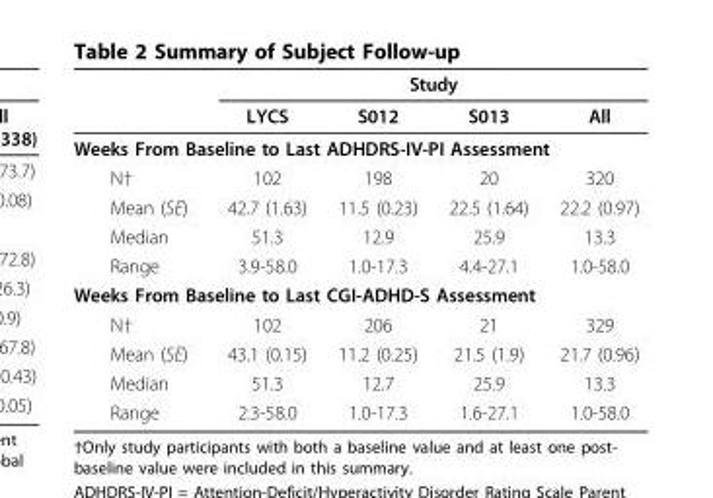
<table><thead><tr><td rowspan="2"></td><td colspan="4">Study</td></tr><tr><td>LYCS</td><td>S012</td><td>S013</td><td>All</td></tr></thead><tbody><tr><td colspan="5">Weeks From Baseline to Last ADHDRS-IV-PI Assessment</td></tr><tr><td>N†</td><td>102</td><td>198</td><td>20</td><td>320</td></tr><tr><td>Mean (SE)</td><td>42.7 (1.63)</td><td>11.5 (0.23)</td><td>22.5 (1.64)</td><td>22.2 (0.97)</td></tr><tr><td>Median</td><td>51.3</td><td>12.9</td><td>25.9</td><td>13.3</td></tr><tr><td>Range</td><td>3.9-58.0</td><td>1.0-17.3</td><td>4.4-27.1</td><td>1.0-58.0</td></tr><tr><td colspan="5">Weeks From Baseline to Last CGI-ADHD-S Assessment</td></tr><tr><td>N†</td><td>102</td><td>206</td><td>21</td><td>329</td></tr><tr><td>Mean (SE)</td><td>43.1 (0.15)</td><td>11.2 (0.25)</td><td>21.5 (1.9)</td><td>21.7 (0.96)</td></tr><tr><td>Median</td><td>51.3</td><td>12.7</td><td>25.9</td><td>13.3</td></tr><tr><td>Range</td><td>2.3-58.0</td><td>1.0-17.3</td><td>1.6-27.1</td><td>1.0-58.0</td></tr></tbody></table>